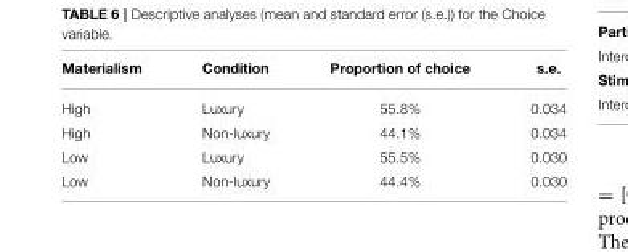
<table><thead><tr><td>Materialism</td><td>Condition</td><td>Proportion of choice</td><td>s.e.</td></tr></thead><tbody><tr><td>High</td><td>Luxury</td><td>55.8%</td><td>0.034</td></tr><tr><td>High</td><td>Non-luxury</td><td>44.1%</td><td>0.034</td></tr><tr><td>Low</td><td>Luxury</td><td>55.5%</td><td>0.030</td></tr><tr><td>Low</td><td>Non-luxury</td><td>44.4%</td><td>0.030</td></tr></tbody></table>